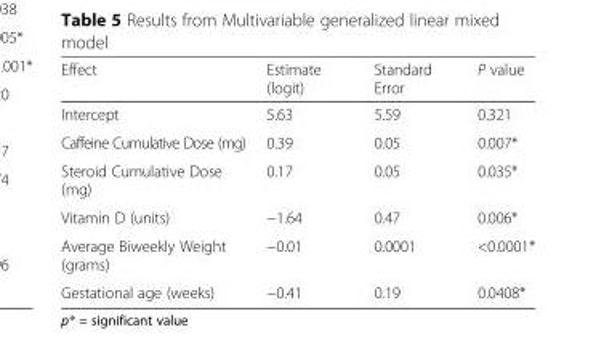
<table><thead><tr><td>Effect</td><td>Estimate (logit)</td><td>Standard Error</td><td>P value</td></tr></thead><tbody><tr><td>Intercept</td><td>5.63</td><td>5.59</td><td>0.321</td></tr><tr><td>Caffeine Cumulative Dose (mg)</td><td>0.39</td><td>0.05</td><td>0.007*</td></tr><tr><td>Steroid Cumulative Dose (mg)</td><td>0.17</td><td>0.05</td><td>0.035*</td></tr><tr><td>Vitamin D (units)</td><td>−1.64</td><td>0.47</td><td>0.006*</td></tr><tr><td>Average Biweekly Weight (grams)</td><td>−0.01</td><td>0.0001</td><td>&lt;0.0001*</td></tr><tr><td>Gestational age (weeks)</td><td>−0.41</td><td>0.19</td><td>0.0408*</td></tr></tbody></table>